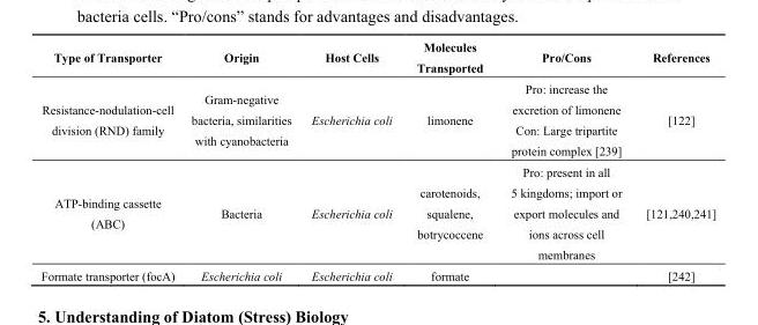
<table><thead><tr><td>Type of Transporter</td><td>Origin</td><td>Host Cells</td><td>Molecules Transported</td><td>Pro/Cons</td><td>References</td></tr></thead><tbody><tr><td>Resistance-nodulation-cell division (RND) family</td><td>Gram-negative bacteria, similarities with cyanobacteria</td><td>Escherichia coli</td><td>limonene</td><td>Pro: increase the excretion of limonene Con: Large tripartite protein complex [239]</td><td>[122]</td></tr><tr><td>ATP-binding cassette (ABC)</td><td>Bacteria</td><td>Escherichia coli</td><td>carotenoids, squalene, botrycoccene</td><td>Pro: present in all 5 kingdoms; import or export molecules and ions across cell membranes</td><td>[121,240,241]</td></tr><tr><td>Formate transporter (focA)</td><td>Escherichia coli</td><td>Escherichia coli</td><td>formate</td><td></td><td>[242]</td></tr></tbody></table>